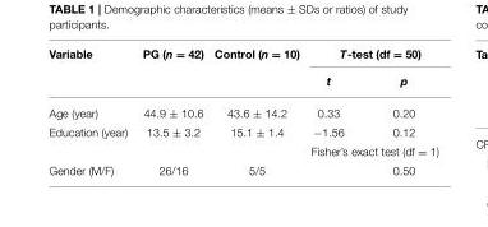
<table><thead><tr><td rowspan="2">Variable</td><td rowspan="2">PG (n = 42)</td><td rowspan="2">Control (n = 10)</td><td colspan="2">T-test (df = 50)</td></tr><tr><td>t</td><td>p</td></tr></thead><tbody><tr><td>Age (year)</td><td>44.9 ± 10.6</td><td>43.6 ± 14.2</td><td>0.33</td><td>0.20</td></tr><tr><td rowspan="2">Education (year)</td><td>13.5 ± 3.2</td><td>15.1 ± 1.4</td><td>−1.56</td><td>0.12</td></tr><tr><td></td><td></td><td colspan="2">Fisher’s exact test (df = 1)</td></tr><tr><td>Gender (M/F)</td><td>26/16</td><td>5/5</td><td></td><td>0.50</td></tr></tbody></table>